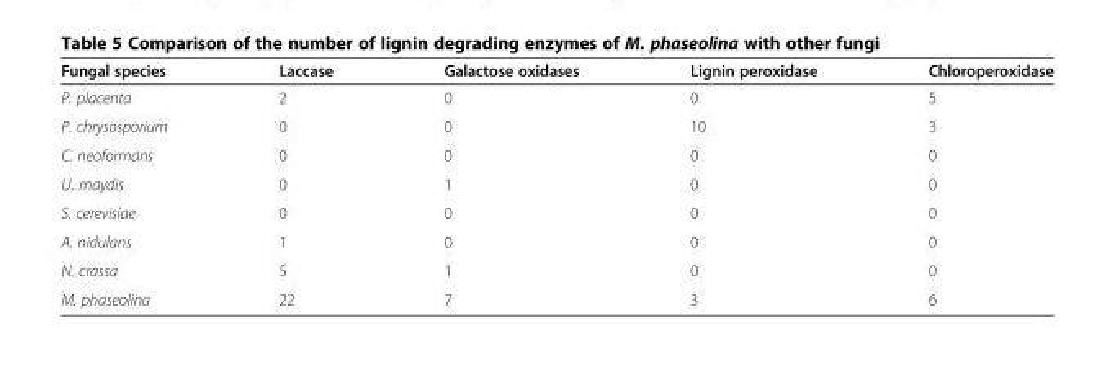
<table><thead><tr><td>Fungal species</td><td>Laccase</td><td>Galactose oxidases</td><td>Lignin peroxidase</td><td>Chloroperoxidase</td></tr></thead><tbody><tr><td>P. placenta</td><td>2</td><td>0</td><td>0</td><td>5</td></tr><tr><td>P. chrysosporium</td><td>0</td><td>0</td><td>10</td><td>3</td></tr><tr><td>C. neoformans</td><td>0</td><td>0</td><td>0</td><td>0</td></tr><tr><td>U. maydis</td><td>0</td><td>1</td><td>0</td><td>0</td></tr><tr><td>S. cerevisiae</td><td>0</td><td>0</td><td>0</td><td>0</td></tr><tr><td>A. nidulans</td><td>1</td><td>0</td><td>0</td><td>0</td></tr><tr><td>N. crassa</td><td>5</td><td>1</td><td>0</td><td>0</td></tr><tr><td>M. phaseolina</td><td>22</td><td>7</td><td>3</td><td>6</td></tr></tbody></table>